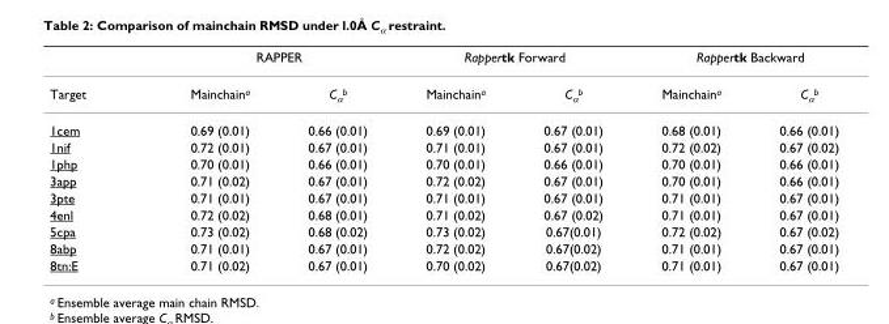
<table><thead><tr><td rowspan="2">Target</td><td colspan="2">RAPPER</td><td colspan="2">Rappertk Forward</td><td colspan="2">Rappertk Backward</td></tr><tr><td>Mainchaina</td><td>Cαb</td><td>Mainchaina</td><td>Cαb</td><td>Mainchaina</td><td>Cαb</td></tr></thead><tbody><tr><td>1cem</td><td>0.69 (0.01)</td><td>0.66 (0.01)</td><td>0.69 (0.01)</td><td>0.67 (0.01)</td><td>0.68 (0.01)</td><td>0.66 (0.01)</td></tr><tr><td>1nif</td><td>0.72 (0.01)</td><td>0.67 (0.01)</td><td>0.71 (0.01)</td><td>0.67 (0.01)</td><td>0.72 (0.02)</td><td>0.67 (0.02)</td></tr><tr><td>1php</td><td>0.70 (0.01)</td><td>0.66 (0.01)</td><td>0.70 (0.01)</td><td>0.66 (0.01)</td><td>0.70 (0.01)</td><td>0.66 (0.01)</td></tr><tr><td>3app</td><td>0.71 (0.02)</td><td>0.67 (0.01)</td><td>0.72 (0.02)</td><td>0.67 (0.01)</td><td>0.70 (0.01)</td><td>0.66 (0.01)</td></tr><tr><td>3pte</td><td>0.71 (0.01)</td><td>0.67 (0.01)</td><td>0.71 (0.01)</td><td>0.67 (0.01)</td><td>0.71 (0.01)</td><td>0.67 (0.01)</td></tr><tr><td>4enl</td><td>0.72 (0.02)</td><td>0.68 (0.01)</td><td>0.71 (0.02)</td><td>0.67 (0.02)</td><td>0.71 (0.01)</td><td>0.67 (0.01)</td></tr><tr><td>5cpa</td><td>0.73 (0.02)</td><td>0.68 (0.02)</td><td>0.73 (0.02)</td><td>0.67(0.01)</td><td>0.72 (0.02)</td><td>0.67 (0.02)</td></tr><tr><td>8abp</td><td>0.71 (0.01)</td><td>0.67 (0.01)</td><td>0.72 (0.02)</td><td>0.67(0.02)</td><td>0.71 (0.01)</td><td>0.67 (0.01)</td></tr><tr><td>8tn:E</td><td>0.71 (0.02)</td><td>0.67 (0.01)</td><td>0.70 (0.02)</td><td>0.67(0.02)</td><td>0.71 (0.01)</td><td>0.67 (0.01)</td></tr></tbody></table>